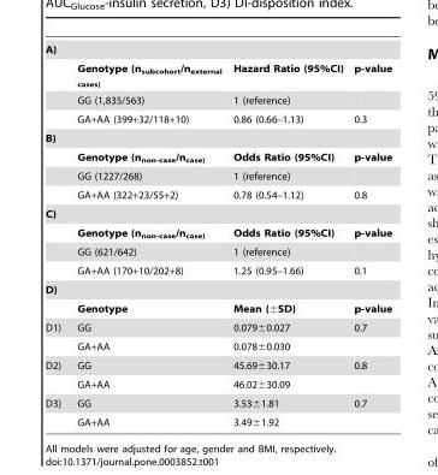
<table><tbody><tr><td colspan="4">A)</td></tr><tr><td></td><td>Genotype (n<sub>subcohort</sub>/n<sub>external cases)</sub></td><td>Hazard Ratio (95%CI)</td><td>p-value</td></tr><tr><td></td><td>GG (1,835/563)</td><td>1 (reference)</td><td></td></tr><tr><td></td><td>GA+AA (399+32/118+10)</td><td>0.86 (0.66–1.13)</td><td>0.3</td></tr><tr><td colspan="4">B)</td></tr><tr><td></td><td>Genotype (n<sub>non-case</sub>/n<sub>case)</sub></td><td>Odds Ratio (95%CI)</td><td>p-value</td></tr><tr><td></td><td>GG (1227/268)</td><td>1 (reference)</td><td></td></tr><tr><td></td><td>GA+AA (322+23/55+2)</td><td>0.78 (0.54–1.12)</td><td>0.8</td></tr><tr><td colspan="4">C)</td></tr><tr><td></td><td>Genotype (n<sub>non-case</sub>/n<sub>case)</sub></td><td>Odds Ratio (95%CI)</td><td>p-value</td></tr><tr><td></td><td>GG (621/642)</td><td>1 (reference)</td><td></td></tr><tr><td></td><td>GA+AA (170+10/202+8)</td><td>1.25 (0.95–1.66)</td><td>0.1</td></tr><tr><td colspan="4">D)</td></tr><tr><td></td><td>Genotype</td><td>Mean (±SD)</td><td>p-value</td></tr><tr><td rowspan="2">D1)</td><td>GG</td><td>0.079±0.027</td><td>0.7</td></tr><tr><td>GA+AA</td><td>0.078±0.030</td><td></td></tr><tr><td rowspan="2">D2)</td><td>GG</td><td>45.69±30.17</td><td>0.8</td></tr><tr><td>GA+AA</td><td>46.02±30.09</td><td></td></tr><tr><td rowspan="2">D3)</td><td>GG</td><td>3.53±1.81</td><td>0.7</td></tr><tr><td>GA+AA</td><td>3.49±1.92</td><td></td></tr></tbody></table>